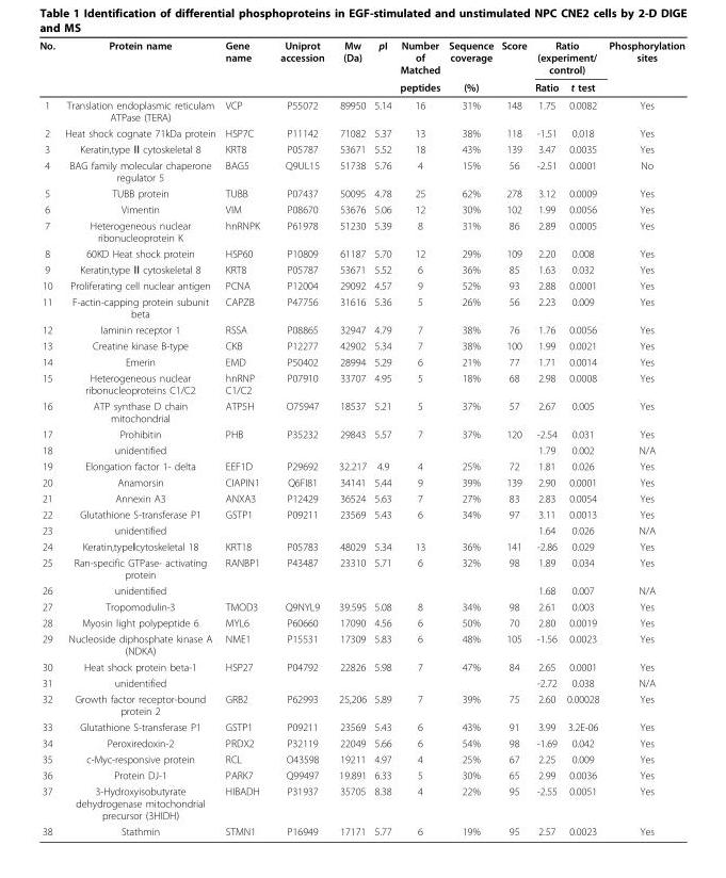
<table><thead><tr><td rowspan="2">No.</td><td rowspan="2">Protein name</td><td rowspan="2">Gene name</td><td rowspan="2">Uniprot accession</td><td rowspan="2">Mw (Da)</td><td rowspan="2">pI</td><td rowspan="2">Number of Matched peptides</td><td rowspan="2">Sequence coverage (%)</td><td rowspan="2">Score</td><td colspan="2">Ratio (experiment/ control)</td><td rowspan="2">Phosphorylation sites</td></tr><tr><td>Ratio</td><td>t test</td></tr></thead><tbody><tr><td>1</td><td>Translation endoplasmic reticulam ATPase (TERA)</td><td>VCP</td><td>P55072</td><td>89950</td><td>5.14</td><td>16</td><td>31%</td><td>148</td><td>1.75</td><td>0.0082</td><td>Yes</td></tr><tr><td>2</td><td>Heat shock cognate 71kDa protein</td><td>HSP7C</td><td>P11142</td><td>71082</td><td>5.37</td><td>13</td><td>38%</td><td>118</td><td>-1.51</td><td>0.018</td><td>Yes</td></tr><tr><td>3</td><td>Keratin,type Ⅱ cytoskeletal 8</td><td>KRT8</td><td>P05787</td><td>53671</td><td>5.52</td><td>18</td><td>43%</td><td>139</td><td>3.47</td><td>0.0035</td><td>Yes</td></tr><tr><td>4</td><td>BAG family molecular chaperone regulator 5</td><td>BAG5</td><td>Q9UL15</td><td>51738</td><td>5.76</td><td>4</td><td>15%</td><td>56</td><td>-2.51</td><td>0.0001</td><td>No</td></tr><tr><td>5</td><td>TUBB protein</td><td>TUBB</td><td>P07437</td><td>50095</td><td>4.78</td><td>25</td><td>62%</td><td>278</td><td>3.12</td><td>0.0009</td><td>Yes</td></tr><tr><td>6</td><td>Vimentin</td><td>VIM</td><td>P08670</td><td>53676</td><td>5.06</td><td>12</td><td>30%</td><td>102</td><td>1.99</td><td>0.0056</td><td>Yes</td></tr><tr><td>7</td><td>Heterogeneous nuclear ribonucleoprotein K</td><td>hnRNPK</td><td>P61978</td><td>51230</td><td>5.39</td><td>8</td><td>31%</td><td>86</td><td>2.89</td><td>0.0005</td><td>Yes</td></tr><tr><td>8</td><td>60KD Heat shock protein</td><td>HSP60</td><td>P10809</td><td>61187</td><td>5.70</td><td>12</td><td>29%</td><td>109</td><td>2.20</td><td>0.008</td><td>Yes</td></tr><tr><td>9</td><td>Keratin,type Ⅱ cytoskeletal 8</td><td>KRT8</td><td>P05787</td><td>53671</td><td>5.52</td><td>6</td><td>36%</td><td>85</td><td>1.63</td><td>0.032</td><td>Yes</td></tr><tr><td>10</td><td>Proliferating cell nuclear antigen</td><td>PCNA</td><td>P12004</td><td>29092</td><td>4.57</td><td>9</td><td>52%</td><td>93</td><td>2.88</td><td>0.0001</td><td>Yes</td></tr><tr><td>11</td><td>F-actin-capping protein subunit beta</td><td>CAPZB</td><td>P47756</td><td>31616</td><td>5.36</td><td>5</td><td>26%</td><td>56</td><td>2.23</td><td>0.009</td><td>Yes</td></tr><tr><td>12</td><td>laminin receptor 1</td><td>RSSA</td><td>P08865</td><td>32947</td><td>4.79</td><td>7</td><td>38%</td><td>76</td><td>1.76</td><td>0.0056</td><td>Yes</td></tr><tr><td>13</td><td>Creatine kinase B-type</td><td>CKB</td><td>P12277</td><td>42902</td><td>5.34</td><td>7</td><td>38%</td><td>100</td><td>1.99</td><td>0.0021</td><td>Yes</td></tr><tr><td>14</td><td>Emerin</td><td>EMD</td><td>P50402</td><td>28994</td><td>5.29</td><td>6</td><td>21%</td><td>77</td><td>1.71</td><td>0.0014</td><td>Yes</td></tr><tr><td>15</td><td>Heterogeneous nuclear ribonucleoproteins C1/C2</td><td>hnRNP C1/C2</td><td>P07910</td><td>33707</td><td>4.95</td><td>5</td><td>18%</td><td>68</td><td>2.98</td><td>0.0008</td><td>Yes</td></tr><tr><td>16</td><td>ATP synthase D chain mitochondrial</td><td>ATP5H</td><td>O75947</td><td>18537</td><td>5.21</td><td>5</td><td>37%</td><td>57</td><td>2.67</td><td>0.005</td><td>Yes</td></tr><tr><td>17</td><td>Prohibitin</td><td>PHB</td><td>P35232</td><td>29843</td><td>5.57</td><td>7</td><td>37%</td><td>120</td><td>-2.54</td><td>0.031</td><td>Yes</td></tr><tr><td>18</td><td>unidentified</td><td></td><td></td><td></td><td></td><td></td><td></td><td></td><td>1.79</td><td>0.002</td><td>N/A</td></tr><tr><td>19</td><td>Elongation factor 1- delta</td><td>EEF1D</td><td>P29692</td><td>32.217</td><td>4.9</td><td>4</td><td>25%</td><td>72</td><td>1.81</td><td>0.026</td><td>Yes</td></tr><tr><td>20</td><td>Anamorsin</td><td>CIAPIN1</td><td>Q6FI81</td><td>34141</td><td>5.44</td><td>9</td><td>39%</td><td>139</td><td>2.90</td><td>0.0001</td><td>Yes</td></tr><tr><td>21</td><td>Annexin A3</td><td>ANXA3</td><td>P12429</td><td>36524</td><td>5.63</td><td>7</td><td>27%</td><td>83</td><td>2.83</td><td>0.0054</td><td>Yes</td></tr><tr><td>22</td><td>Glutathione S-transferase P1</td><td>GSTP1</td><td>P09211</td><td>23569</td><td>5.43</td><td>6</td><td>34%</td><td>97</td><td>3.11</td><td>0.0013</td><td>Yes</td></tr><tr><td>23</td><td>unidentified</td><td></td><td></td><td></td><td></td><td></td><td></td><td></td><td>1.64</td><td>0.026</td><td>N/A</td></tr><tr><td>24</td><td>Keratin,typeⅠcytoskeletal 18</td><td>KRT18</td><td>P05783</td><td>48029</td><td>5.34</td><td>13</td><td>36%</td><td>141</td><td>-2.86</td><td>0.029</td><td>Yes</td></tr><tr><td>25</td><td>Ran-specific GTPase- activating protein</td><td>RANBP1</td><td>P43487</td><td>23310</td><td>5.71</td><td>6</td><td>32%</td><td>98</td><td>1.89</td><td>0.034</td><td>Yes</td></tr><tr><td>26</td><td>unidentified</td><td></td><td></td><td></td><td></td><td></td><td></td><td></td><td>1.68</td><td>0.007</td><td>N/A</td></tr><tr><td>27</td><td>Tropomodulin-3</td><td>TMOD3</td><td>Q9NYL9</td><td>39.595</td><td>5.08</td><td>8</td><td>34%</td><td>98</td><td>2.61</td><td>0.003</td><td>Yes</td></tr><tr><td>28</td><td>Myosin light polypeptide 6</td><td>MYL6</td><td>P60660</td><td>17090</td><td>4.56</td><td>6</td><td>50%</td><td>70</td><td>2.80</td><td>0.0019</td><td>Yes</td></tr><tr><td>29</td><td>Nucleoside diphosphate kinase A (NDKA)</td><td>NME1</td><td>P15531</td><td>17309</td><td>5.83</td><td>6</td><td>48%</td><td>105</td><td>-1.56</td><td>0.0023</td><td>Yes</td></tr><tr><td>30</td><td>Heat shock protein beta-1</td><td>HSP27</td><td>P04792</td><td>22826</td><td>5.98</td><td>7</td><td>47%</td><td>84</td><td>2.65</td><td>0.0001</td><td>Yes</td></tr><tr><td>31</td><td>unidentified</td><td></td><td></td><td></td><td></td><td></td><td></td><td></td><td>-2.72</td><td>0.038</td><td>N/A</td></tr><tr><td>32</td><td>Growth factor receptor-bound protein 2</td><td>GRB2</td><td>P62993</td><td>25,206</td><td>5.89</td><td>7</td><td>39%</td><td>75</td><td>2.60</td><td>0.00028</td><td>Yes</td></tr><tr><td>33</td><td>Glutathione S-transferase P1</td><td>GSTP1</td><td>P09211</td><td>23569</td><td>5.43</td><td>6</td><td>43%</td><td>91</td><td>3.99</td><td>3.2E-06</td><td>Yes</td></tr><tr><td>34</td><td>Peroxiredoxin-2</td><td>PRDX2</td><td>P32119</td><td>22049</td><td>5.66</td><td>6</td><td>54%</td><td>98</td><td>-1.69</td><td>0.042</td><td>Yes</td></tr><tr><td>35</td><td>c-Myc-responsive protein</td><td>RCL</td><td>O43598</td><td>19211</td><td>4.97</td><td>4</td><td>25%</td><td>67</td><td>2.25</td><td>0.009</td><td>Yes</td></tr><tr><td>36</td><td>Protein DJ-1</td><td>PARK7</td><td>Q99497</td><td>19.891</td><td>6.33</td><td>5</td><td>30%</td><td>65</td><td>2.99</td><td>0.0036</td><td>Yes</td></tr><tr><td>37</td><td>3-Hydroxyisobutyrate dehydrogenase mitochondrial precursor (3HIDH)</td><td>HIBADH</td><td>P31937</td><td>35705</td><td>8.38</td><td>4</td><td>22%</td><td>95</td><td>-2.55</td><td>0.0051</td><td>Yes</td></tr><tr><td>38</td><td>Stathmin</td><td>STMN1</td><td>P16949</td><td>17171</td><td>5.77</td><td>6</td><td>19%</td><td>95</td><td>2.57</td><td>0.0023</td><td>Yes</td></tr></tbody></table>